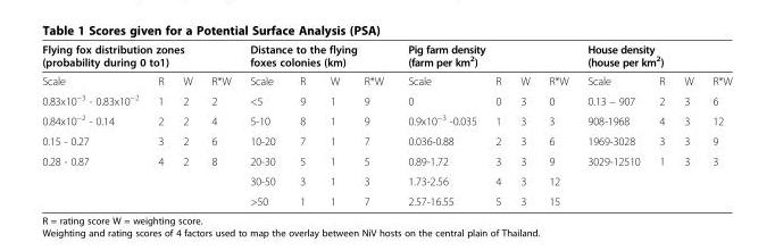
<table><thead><tr><td colspan="4">Flying fox distribution zones (probability during 0 to1)</td><td colspan="4">Distance to the flying foxes colonies (km)</td><td colspan="4">Pig farm density (farm per km<sup>2</sup>)</td><td colspan="4">House density (house per km<sup>2</sup>)</td></tr><tr><td>Scale</td><td>R</td><td>W</td><td>R*W</td><td>Scale</td><td>R</td><td>W</td><td>R*W</td><td>Scale</td><td>R</td><td>W</td><td>R*W</td><td>Scale</td><td>R</td><td>W</td><td>R*W</td></tr></thead><tbody><tr><td>0.83x10<sup>−3</sup> - 0.83x10<sup>−2</sup></td><td>1</td><td>2</td><td>2</td><td>&lt;5</td><td>9</td><td>1</td><td>9</td><td>0</td><td>0</td><td>3</td><td>0</td><td>0.13 – 907</td><td>2</td><td>3</td><td>6</td></tr><tr><td>0.84x10<sup>−2</sup> - 0.14</td><td>2</td><td>2</td><td>4</td><td>5-10</td><td>8</td><td>1</td><td>9</td><td>0.9x10<sup>−3</sup> -0.035</td><td>1</td><td>3</td><td>3</td><td>908-1968</td><td>4</td><td>3</td><td>12</td></tr><tr><td>0.15 - 0.27</td><td>3</td><td>2</td><td>6</td><td>10-20</td><td>7</td><td>1</td><td>7</td><td>0.036-0.88</td><td>2</td><td>3</td><td>6</td><td>1969-3028</td><td>3</td><td>3</td><td>9</td></tr><tr><td rowspan="3">0.28 - 0.87</td><td>4</td><td>2</td><td>8</td><td>20-30</td><td>5</td><td>1</td><td>5</td><td>0.89-1.72</td><td>3</td><td>3</td><td>9</td><td>3029-12510</td><td>1</td><td>3</td><td>3</td></tr><tr><td></td><td></td><td></td><td>30-50</td><td>3</td><td>1</td><td>3</td><td>1.73-2.56</td><td>4</td><td>3</td><td>12</td><td></td><td></td><td></td><td></td></tr><tr><td></td><td></td><td></td><td>&gt;50</td><td>1</td><td>1</td><td>7</td><td>2.57-16.55</td><td>5</td><td>3</td><td>15</td><td></td><td></td><td></td><td></td></tr></tbody></table>